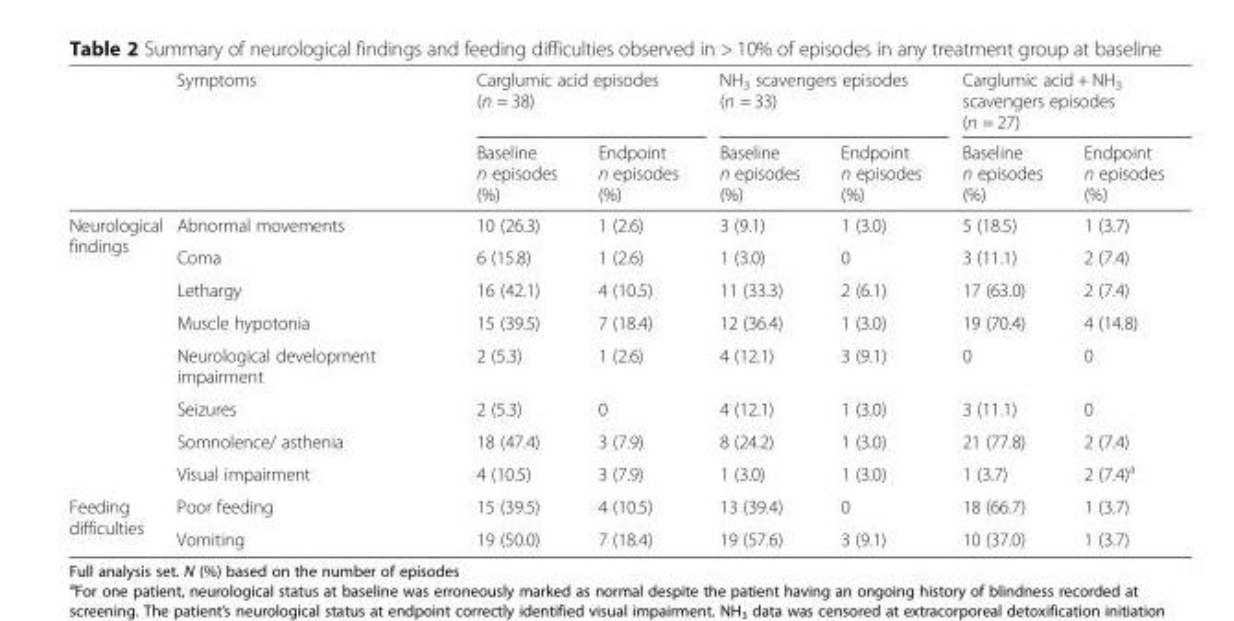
<table><thead><tr><td rowspan="2"></td><td rowspan="2">Symptoms</td><td colspan="2">Carglumic acid episodes (n = 38)</td><td colspan="2">NH<sub>3</sub> scavengers episodes (n = 33)</td><td colspan="2">Carglumic acid + NH<sub>3</sub> scavengers episodes (n = 27)</td></tr><tr><td>Baseline n episodes (%)</td><td>Endpoint n episodes (%)</td><td>Baseline n episodes (%)</td><td>Endpoint n episodes (%)</td><td>Baseline n episodes (%)</td><td>Endpoint n episodes (%)</td></tr></thead><tbody><tr><td rowspan="8">Neurological findings</td><td>Abnormal movements</td><td>10 (26.3)</td><td>1 (2.6)</td><td>3 (9.1)</td><td>1 (3.0)</td><td>5 (18.5)</td><td>1 (3.7)</td></tr><tr><td>Coma</td><td>6 (15.8)</td><td>1 (2.6)</td><td>1 (3.0)</td><td>0</td><td>3 (11.1)</td><td>2 (7.4)</td></tr><tr><td>Lethargy</td><td>16 (42.1)</td><td>4 (10.5)</td><td>11 (33.3)</td><td>2 (6.1)</td><td>17 (63.0)</td><td>2 (7.4)</td></tr><tr><td>Muscle hypotonia</td><td>15 (39.5)</td><td>7 (18.4)</td><td>12 (36.4)</td><td>1 (3.0)</td><td>19 (70.4)</td><td>4 (14.8)</td></tr><tr><td>Neurological development impairment</td><td>2 (5.3)</td><td>1 (2.6)</td><td>4 (12.1)</td><td>3 (9.1)</td><td>0</td><td>0</td></tr><tr><td>Seizures</td><td>2 (5.3)</td><td>0</td><td>4 (12.1)</td><td>1 (3.0)</td><td>3 (11.1)</td><td>0</td></tr><tr><td>Somnolence/ asthenia</td><td>18 (47.4)</td><td>3 (7.9)</td><td>8 (24.2)</td><td>1 (3.0)</td><td>21 (77.8)</td><td>2 (7.4)</td></tr><tr><td>Visual impairment</td><td>4 (10.5)</td><td>3 (7.9)</td><td>1 (3.0)</td><td>1 (3.0)</td><td>1 (3.7)</td><td>2 (7.4)<sup>a</sup></td></tr><tr><td rowspan="2">Feeding difficulties</td><td>Poor feeding</td><td>15 (39.5)</td><td>4 (10.5)</td><td>13 (39.4)</td><td>0</td><td>18 (66.7)</td><td>1 (3.7)</td></tr><tr><td>Vomiting</td><td>19 (50.0)</td><td>7 (18.4)</td><td>19 (57.6)</td><td>3 (9.1)</td><td>10 (37.0)</td><td>1 (3.7)</td></tr></tbody></table>